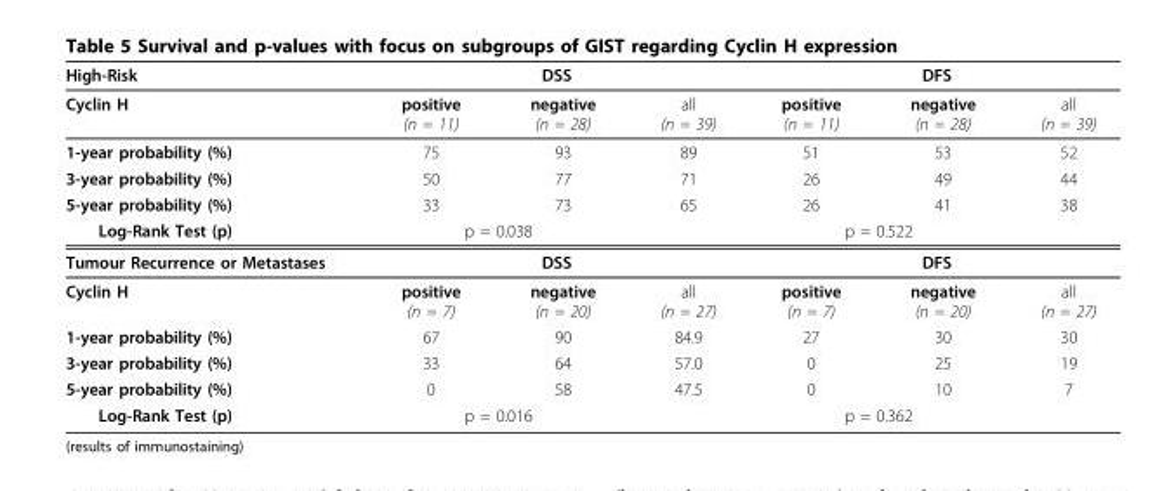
<table><thead><tr><td rowspan="2">High-Risk Cyclin H</td><td colspan="3">DSS</td><td colspan="3">DFS</td></tr><tr><td>positive (n = 11)</td><td>negative (n = 28)</td><td>all (n = 39)</td><td>positive (n = 11)</td><td>negative (n = 28)</td><td>all (n = 39)</td></tr></thead><tbody><tr><td>1-year probability (%)</td><td>75</td><td>93</td><td>89</td><td>51</td><td>53</td><td>52</td></tr><tr><td>3-year probability (%)</td><td>50</td><td>77</td><td>71</td><td>26</td><td>49</td><td>44</td></tr><tr><td>5-year probability (%)</td><td>33</td><td>73</td><td>65</td><td>26</td><td>41</td><td>38</td></tr><tr><td>Log-Rank Test (p)</td><td colspan="2">p = 0.038</td><td></td><td colspan="2">p = 0.522</td><td></td></tr><tr><td>Tumour Recurrence or Metastases</td><td colspan="3">DSS</td><td colspan="3">DFS</td></tr><tr><td>Cyclin H</td><td>positive (n = 7)</td><td>negative (n = 20)</td><td>all (n = 27)</td><td>positive (n = 7)</td><td>negative (n = 20)</td><td>all (n = 27)</td></tr><tr><td>1-year probability (%)</td><td>67</td><td>90</td><td>84.9</td><td>27</td><td>30</td><td>30</td></tr><tr><td>3-year probability (%)</td><td>33</td><td>64</td><td>57.0</td><td>0</td><td>25</td><td>19</td></tr><tr><td>5-year probability (%)</td><td>0</td><td>58</td><td>47.5</td><td>0</td><td>10</td><td>7</td></tr><tr><td>Log-Rank Test (p)</td><td colspan="2">p = 0.016</td><td></td><td colspan="2">p = 0.362</td><td></td></tr></tbody></table>